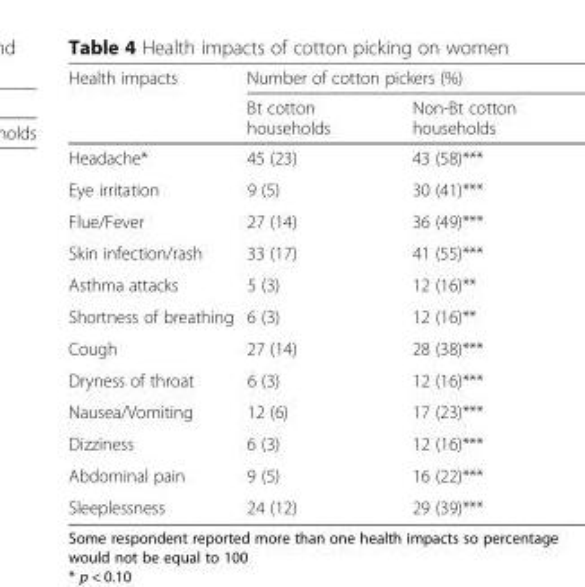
<table><thead><tr><td rowspan="2">Health impacts</td><td colspan="2">Number of cotton pickers (%)</td></tr><tr><td>Bt cotton households</td><td>Non-Bt cotton households</td></tr></thead><tbody><tr><td>Headache*</td><td>45 (23)</td><td>43 (58)***</td></tr><tr><td>Eye irritation</td><td>9 (5)</td><td>30 (41)***</td></tr><tr><td>Flue/Fever</td><td>27 (14)</td><td>36 (49)***</td></tr><tr><td>Skin infection/rash</td><td>33 (17)</td><td>41 (55)***</td></tr><tr><td>Asthma attacks</td><td>5 (3)</td><td>12 (16)**</td></tr><tr><td>Shortness of breathing</td><td>6 (3)</td><td>12 (16)**</td></tr><tr><td>Cough</td><td>27 (14)</td><td>28 (38)***</td></tr><tr><td>Dryness of throat</td><td>6 (3)</td><td>12 (16)***</td></tr><tr><td>Nausea/Vomiting</td><td>12 (6)</td><td>17 (23)***</td></tr><tr><td>Dizziness</td><td>6 (3)</td><td>12 (16)***</td></tr><tr><td>Abdominal pain</td><td>9 (5)</td><td>16 (22)***</td></tr><tr><td>Sleeplessness</td><td>24 (12)</td><td>29 (39)***</td></tr></tbody></table>